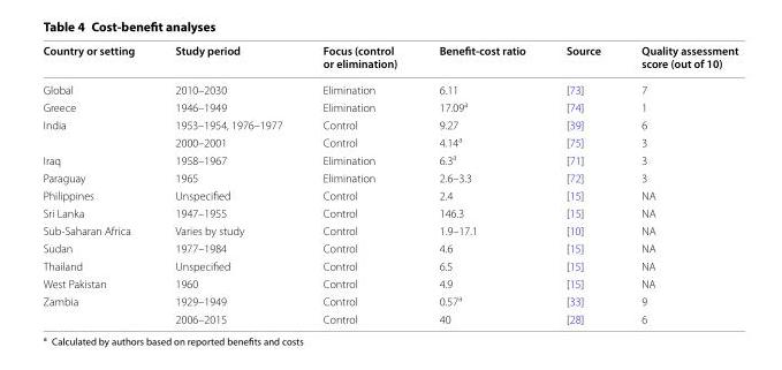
<table><thead><tr><td>Country or setting</td><td>Study period</td><td>Focus (control or elimination)</td><td>Benefit‑cost ratio</td><td>Source</td><td>Quality assessment score (out of 10)</td></tr></thead><tbody><tr><td>Global</td><td>2010–2030</td><td>Elimination</td><td>6.11</td><td>[73]</td><td>7</td></tr><tr><td>Greece</td><td>1946–1949</td><td>Elimination</td><td>17.09<sup>a</sup></td><td>[74]</td><td>1</td></tr><tr><td rowspan="2">India</td><td>1953–1954, 1976–1977</td><td>Control</td><td>9.27</td><td>[39]</td><td>6</td></tr><tr><td>2000–2001</td><td>Control</td><td>4.14<sup>a</sup></td><td>[75]</td><td>3</td></tr><tr><td>Iraq</td><td>1958–1967</td><td>Elimination</td><td>6.3<sup>a</sup></td><td>[71]</td><td>3</td></tr><tr><td>Paraguay</td><td>1965</td><td>Elimination</td><td>2.6–3.3</td><td>[72]</td><td>3</td></tr><tr><td>Philippines</td><td>Unspecified</td><td>Control</td><td>2.4</td><td>[15]</td><td>NA</td></tr><tr><td>Sri Lanka</td><td>1947–1955</td><td>Control</td><td>146.3</td><td>[15]</td><td>NA</td></tr><tr><td>Sub-Saharan Africa</td><td>Varies by study</td><td>Control</td><td>1.9–17.1</td><td>[10]</td><td>NA</td></tr><tr><td>Sudan</td><td>1977–1984</td><td>Control</td><td>4.6</td><td>[15]</td><td>NA</td></tr><tr><td>Thailand</td><td>Unspecified</td><td>Control</td><td>6.5</td><td>[15]</td><td>NA</td></tr><tr><td>West Pakistan</td><td>1960</td><td>Control</td><td>4.9</td><td>[15]</td><td>NA</td></tr><tr><td rowspan="2">Zambia</td><td>1929–1949</td><td>Control</td><td>0.57<sup>a</sup></td><td>[33]</td><td>9</td></tr><tr><td>2006–2015</td><td>Control</td><td>40</td><td>[28]</td><td>6</td></tr></tbody></table>